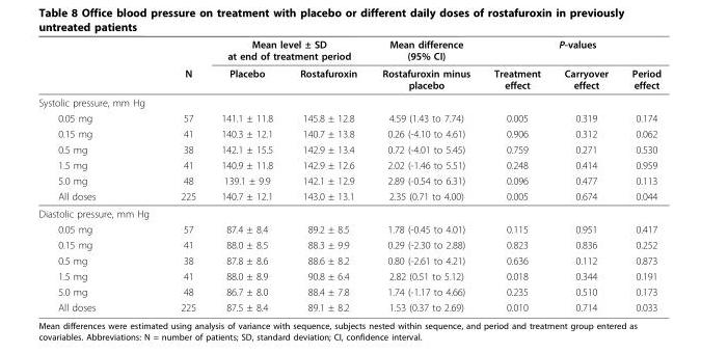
<table><thead><tr><td rowspan="2"></td><td rowspan="2">N</td><td colspan="2">Mean level ± SD at end of treatment period</td><td rowspan="2">Mean difference (95% CI) Rostafuroxin minus placebo</td><td colspan="3">P-values</td></tr><tr><td>Placebo</td><td>Rostafuroxin</td><td>Treatment effect</td><td>Carryover effect</td><td>Period effect</td></tr></thead><tbody><tr><td colspan="8">Systolic pressure, mm Hg</td></tr><tr><td>0.05 mg</td><td>57</td><td>141.1 ± 11.8</td><td>145.8 ± 12.8</td><td>4.59 (1.43 to 7.74)</td><td>0.005</td><td>0.319</td><td>0.174</td></tr><tr><td>0.15 mg</td><td>41</td><td>140.3 ± 12.1</td><td>140.7 ± 13.8</td><td>0.26 (-4.10 to 4.61)</td><td>0.906</td><td>0.312</td><td>0.062</td></tr><tr><td>0.5 mg</td><td>38</td><td>142.1 ± 15.5</td><td>142.9 ± 13.4</td><td>0.72 (-4.01 to 5.45)</td><td>0.759</td><td>0.271</td><td>0.530</td></tr><tr><td>1.5 mg</td><td>41</td><td>140.9 ± 11.8</td><td>142.9 ± 12.6</td><td>2.02 (-1.46 to 5.51)</td><td>0.248</td><td>0.414</td><td>0.959</td></tr><tr><td>5.0 mg</td><td>48</td><td>139.1 ± 9.9</td><td>142.1 ± 12.9</td><td>2.89 (-0.54 to 6.31)</td><td>0.096</td><td>0.477</td><td>0.113</td></tr><tr><td>All doses</td><td>225</td><td>140.7 ± 12.1</td><td>143.0 ± 13.1</td><td>2.35 (0.71 to 4.00)</td><td>0.005</td><td>0.674</td><td>0.044</td></tr><tr><td colspan="8">Diastolic pressure, mm Hg</td></tr><tr><td>0.05 mg</td><td>57</td><td>87.4 ± 8.4</td><td>89.2 ± 8.5</td><td>1.78 (-0.45 to 4.01)</td><td>0.115</td><td>0.951</td><td>0.417</td></tr><tr><td>0.15 mg</td><td>41</td><td>88.0 ± 8.5</td><td>88.3 ± 9.9</td><td>0.29 (-2.30 to 2.88)</td><td>0.823</td><td>0.836</td><td>0.252</td></tr><tr><td>0.5 mg</td><td>38</td><td>87.8 ± 8.6</td><td>88.6 ± 8.2</td><td>0.80 (-2.61 to 4.21)</td><td>0.636</td><td>0.112</td><td>0.873</td></tr><tr><td>1.5 mg</td><td>41</td><td>88.0 ± 8.9</td><td>90.8 ± 6.4</td><td>2.82 (0.51 to 5.12)</td><td>0.018</td><td>0.344</td><td>0.191</td></tr><tr><td>5.0 mg</td><td>48</td><td>86.7 ± 8.0</td><td>88.4 ± 7.8</td><td>1.74 (-1.17 to 4.66)</td><td>0.235</td><td>0.510</td><td>0.173</td></tr><tr><td>All doses</td><td>225</td><td>87.5 ± 8.4</td><td>89.1 ± 8.2</td><td>1.53 (0.37 to 2.69)</td><td>0.010</td><td>0.714</td><td>0.033</td></tr></tbody></table>